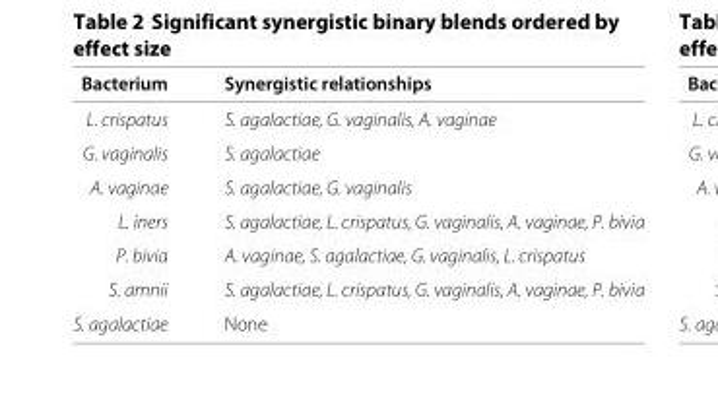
<table><thead><tr><td>Bacterium</td><td>Synergistic relationships</td></tr></thead><tbody><tr><td>L. crispatus</td><td>S. agalactiae, G. vaginalis, A. vaginae</td></tr><tr><td>G. vaginalis</td><td>S. agalactiae</td></tr><tr><td>A. vaginae</td><td>S. agalactiae, G. vaginalis</td></tr><tr><td>L. iners</td><td>S. agalactiae, L. crispatus, G. vaginalis, A. vaginae, P. bivia</td></tr><tr><td>P. bivia</td><td>A. vaginae, S. agalactiae, G. vaginalis, L. crispatus</td></tr><tr><td>S. amnii</td><td>S. agalactiae, L. crispatus, G. vaginalis, A. vaginae, P. bivia</td></tr><tr><td>S. agalactiae</td><td>None</td></tr></tbody></table>